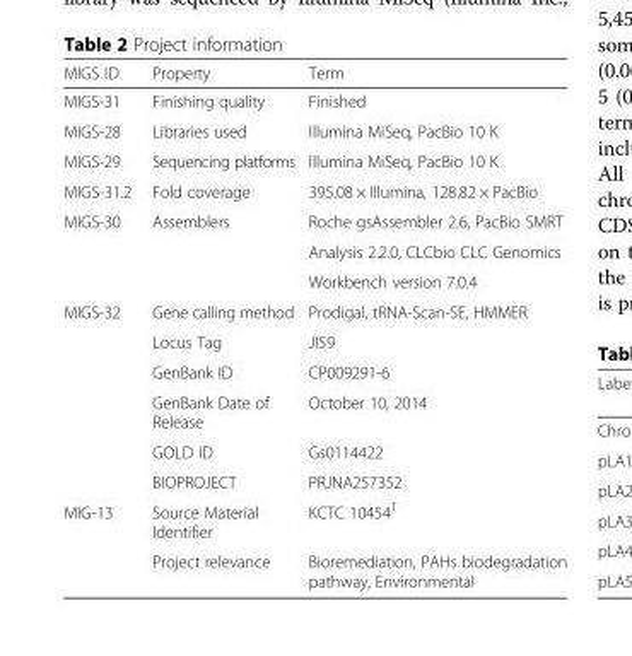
<table><thead><tr><td>MIGS ID</td><td>Property</td><td>Term</td></tr></thead><tbody><tr><td>MIGS-31</td><td>Finishing quality</td><td>Finished</td></tr><tr><td>MIGS-28</td><td>Libraries used</td><td>Illumina MiSeq, PacBio 10 K</td></tr><tr><td>MIGS-29</td><td>Sequencing platforms</td><td>Illumina MiSeq, PacBio 10 K</td></tr><tr><td>MIGS-31.2</td><td>Fold coverage</td><td>395.08 × Illumina, 128.82 × PacBio</td></tr><tr><td rowspan="3">MIGS-30</td><td rowspan="3">Assemblers</td><td>Roche gsAssembler 2.6, PacBio SMRT</td></tr><tr><td>Analysis 2.2.0, CLCbio CLC Genomics</td></tr><tr><td>Workbench version 7.0.4</td></tr><tr><td rowspan="6">MIGS-32</td><td>Gene calling method</td><td>Prodigal, tRNA-Scan-SE, HMMER</td></tr><tr><td>Locus Tag</td><td>JI59</td></tr><tr><td>GenBank ID</td><td>CP009291-6</td></tr><tr><td>GenBank Date of Release</td><td>October 10, 2014</td></tr><tr><td>GOLD ID</td><td>Gs0114422</td></tr><tr><td>BIOPROJECT</td><td>PRJNA257352</td></tr><tr><td rowspan="2">MIG-13</td><td>Source Material Identifier</td><td>KCTC 10454<sup>T</sup></td></tr><tr><td>Project relevance</td><td>Bioremediation, PAHs biodegradation pathway, Environmental</td></tr></tbody></table>